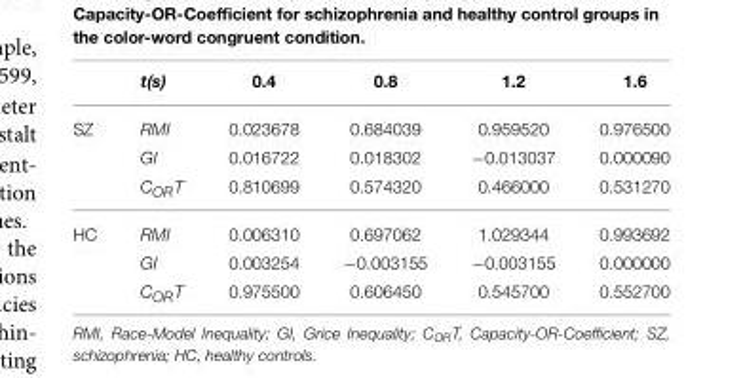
<table><thead><tr><td></td><td>t(s)</td><td>0.4</td><td>0.8</td><td>1.2</td><td>1.6</td></tr></thead><tbody><tr><td rowspan="3">SZ</td><td>RMI</td><td>0.023678</td><td>0.684039</td><td>0.959520</td><td>0.976500</td></tr><tr><td>GI</td><td>0.016722</td><td>0.018302</td><td>−0.013037</td><td>0.000090</td></tr><tr><td>CORT</td><td>0.810699</td><td>0.574320</td><td>0.466000</td><td>0.531270</td></tr><tr><td rowspan="3">HC</td><td>RMI</td><td>0.006310</td><td>0.697062</td><td>1.029344</td><td>0.993692</td></tr><tr><td>GI</td><td>0.003254</td><td>−0.003155</td><td>−0.003155</td><td>0.000000</td></tr><tr><td>CORT</td><td>0.975500</td><td>0.606450</td><td>0.545700</td><td>0.552700</td></tr></tbody></table>